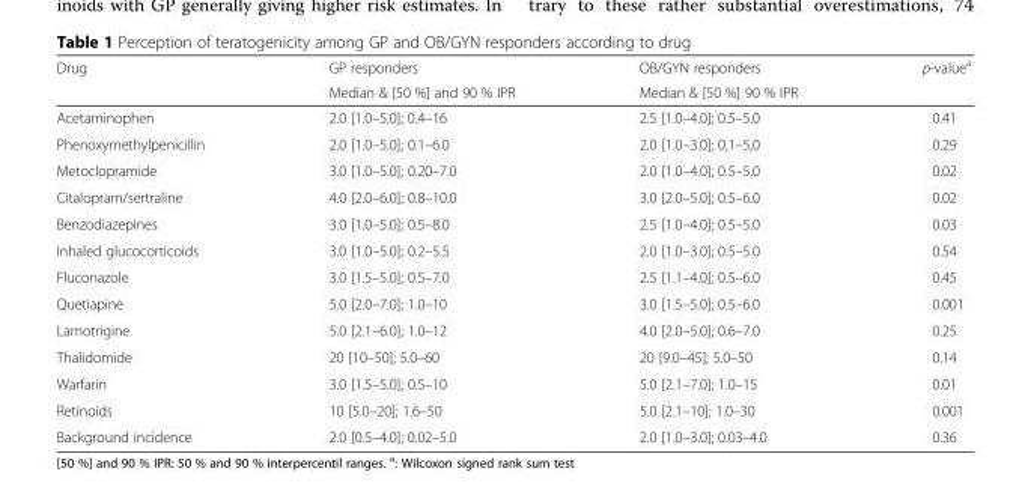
<table><thead><tr><td rowspan="2">Drug</td><td rowspan="2">GP responders Median &amp; [50 %] and 90 % IPR</td><td rowspan="2">OB/GYN responders Median &amp; [50 %] 90 % IPR</td><td rowspan="2">p-value<sup>a</sup></td></tr><tr></tr></thead><tbody><tr><td>Acetaminophen</td><td>2.0 [1.0–5.0]; 0.4–16</td><td>2.5 [1.0–4.0]; 0.5–5.0</td><td>0.41</td></tr><tr><td>Phenoxymethylpenicillin</td><td>2.0 [1.0–5.0]; 0.1–6.0</td><td>2.0 [1.0–3.0]; 0,1–5,0</td><td>0.29</td></tr><tr><td>Metoclopramide</td><td>3.0 [1.0–5.0]; 0.20–7.0</td><td>2.0 [1.0–4.0]; 0.5–5.0</td><td>0.02</td></tr><tr><td>Citalopram/sertraline</td><td>4.0 [2.0–6.0]; 0.8–10.0</td><td>3.0 [2.0–5.0]; 0.5–6.0</td><td>0.02</td></tr><tr><td>Benzodiazepines</td><td>3.0 [1.0–5.0]; 0.5–8.0</td><td>2.5 [1.0–4.0]; 0.5–5.0</td><td>0.03</td></tr><tr><td>Inhaled glucocorticoids</td><td>3.0 [1.0–5.0]; 0.2–5.5</td><td>2.0 [1.0–3.0]; 0.5–5.0</td><td>0.54</td></tr><tr><td>Fluconazole</td><td>3.0 [1.5–5.0]; 0.5–7.0</td><td>2.5 [1.1–4.0]; 0.5–6.0</td><td>0.45</td></tr><tr><td>Quetiapine</td><td>5.0 [2.0–7.0]; 1.0–10</td><td>3.0 [1.5–5.0]; 0.5–6.0</td><td>0.001</td></tr><tr><td>Lamotrigine</td><td>5.0 [2.1–6.0]; 1.0–12</td><td>4.0 [2.0–5.0]; 0.6–7.0</td><td>0.25</td></tr><tr><td>Thalidomide</td><td>20 [10–50]; 5.0–60</td><td>20 [9.0–45]; 5.0–50</td><td>0.14</td></tr><tr><td>Warfarin</td><td>3.0 [1.5–5.0]; 0.5–10</td><td>5.0 [2.1–7.0]; 1.0–15</td><td>0.01</td></tr><tr><td>Retinoids</td><td>10 [5.0–20]; 1.6–50</td><td>5.0 [2.1–10]; 1.0–30</td><td>0.001</td></tr><tr><td>Background incidence</td><td>2.0 [0.5–4.0]; 0.02–5.0</td><td>2.0 [1.0–3.0]; 0.03–4.0</td><td>0.36</td></tr></tbody></table>